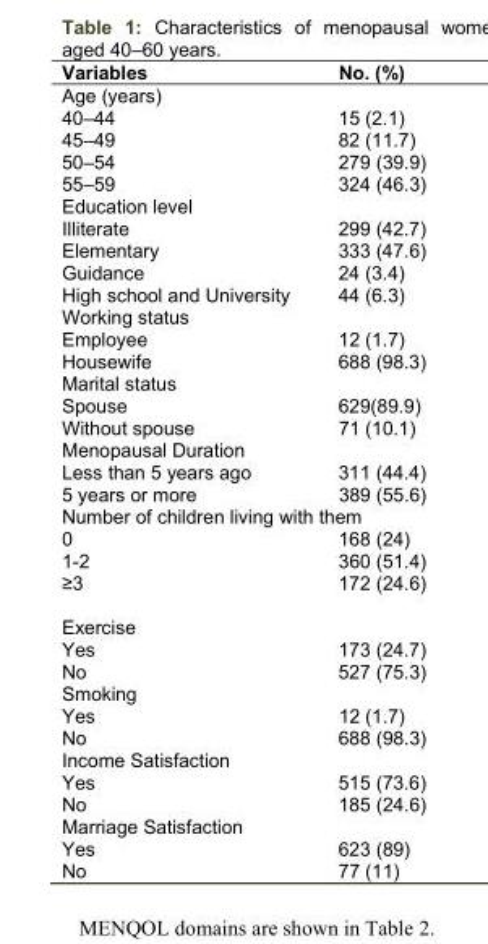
<table><thead><tr><td>Variables</td><td>No. (%)</td></tr></thead><tbody><tr><td colspan="2">Age (years)</td></tr><tr><td>40–44</td><td>15 (2.1)</td></tr><tr><td>45–49</td><td>82 (11.7)</td></tr><tr><td>50–54</td><td>279 (39.9)</td></tr><tr><td>55–59</td><td>324 (46.3)</td></tr><tr><td colspan="2">Education level</td></tr><tr><td>Illiterate</td><td>299 (42.7)</td></tr><tr><td>Elementary</td><td>333 (47.6)</td></tr><tr><td>Guidance</td><td>24 (3.4)</td></tr><tr><td>High school and University</td><td>44 (6.3)</td></tr><tr><td colspan="2">Working status</td></tr><tr><td>Employee</td><td>12 (1.7)</td></tr><tr><td>Housewife</td><td>688 (98.3)</td></tr><tr><td colspan="2">Marital status</td></tr><tr><td>Spouse</td><td>629(89.9)</td></tr><tr><td>Without spouse</td><td>71 (10.1)</td></tr><tr><td colspan="2">Menopausal Duration</td></tr><tr><td>Less than 5 years ago</td><td>311 (44.4)</td></tr><tr><td>5 years or more</td><td>389 (55.6)</td></tr><tr><td colspan="2">Number of children living with them</td></tr><tr><td>0</td><td>168 (24)</td></tr><tr><td>1-2</td><td>360 (51.4)</td></tr><tr><td>≥3</td><td>172 (24.6)</td></tr><tr><td colspan="2">Exercise</td></tr><tr><td>Yes</td><td>173 (24.7)</td></tr><tr><td>No</td><td>527 (75.3)</td></tr><tr><td colspan="2">Smoking</td></tr><tr><td>Yes</td><td>12 (1.7)</td></tr><tr><td>No</td><td>688 (98.3)</td></tr><tr><td colspan="2">Income Satisfaction</td></tr><tr><td>Yes</td><td>515 (73.6)</td></tr><tr><td>No</td><td>185 (24.6)</td></tr><tr><td colspan="2">Marriage Satisfaction</td></tr><tr><td>Yes</td><td>623 (89)</td></tr><tr><td>No</td><td>77 (11)</td></tr></tbody></table>